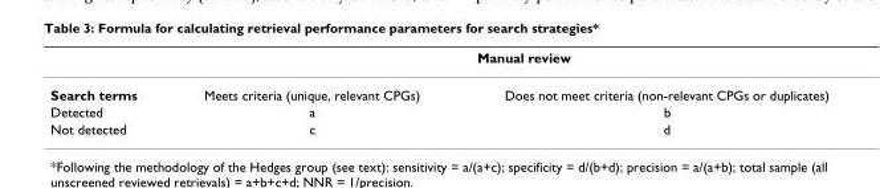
<table><thead><tr><td rowspan="2">Search terms</td><td colspan="2">Manual review</td></tr><tr><td>Meets criteria (unique, relevant CPGs)</td><td>Does not meet criteria (non-relevant CPGs or duplicates)</td></tr></thead><tbody><tr><td>Detected</td><td>a</td><td>b</td></tr><tr><td>Not detected</td><td>c</td><td>d</td></tr></tbody></table>